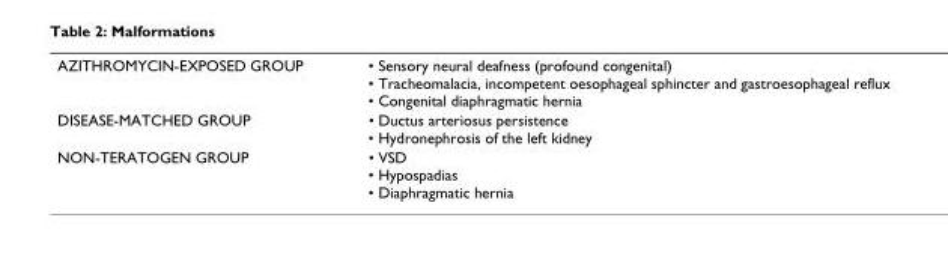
<table><tbody><tr><td>AZITHROMYCIN-EXPOSED GROUP</td><td>• Sensory neural deafness (profound congenital) • Tracheomalacia, incompetent oesophageal sphincter and gastroesophageal reflux • Congenital diaphragmatic hernia</td></tr><tr><td>DISEASE-MATCHED GROUP</td><td>• Ductus arteriosus persistence • Hydronephrosis of the left kidney</td></tr><tr><td>NON-TERATOGEN GROUP</td><td>• VSD • Hypospadias • Diaphragmatic hernia</td></tr></tbody></table>